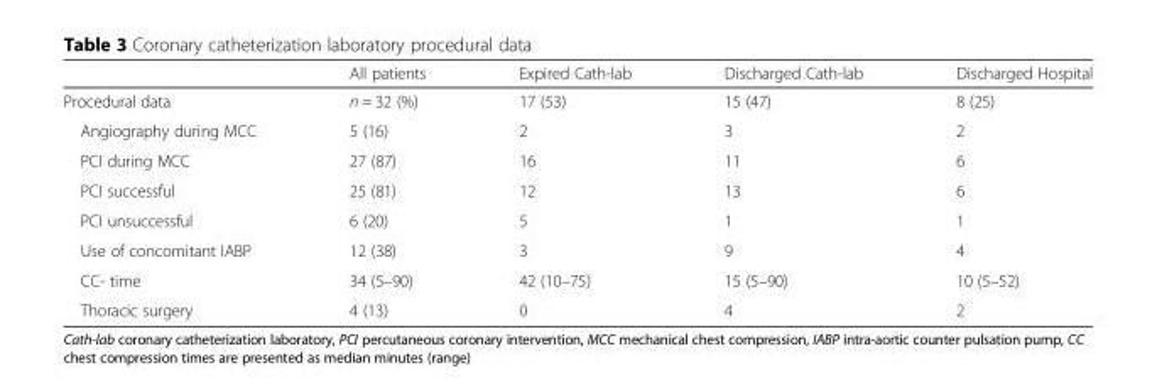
<table><thead><tr><td></td><td>All patients</td><td>Expired Cath-lab</td><td>Discharged Cath-lab</td><td>Discharged Hospital</td></tr></thead><tbody><tr><td>Procedural data</td><td>n = 32 (%)</td><td>17 (53)</td><td>15 (47)</td><td>8 (25)</td></tr><tr><td>Angiography during MCC</td><td>5 (16)</td><td>2</td><td>3</td><td>2</td></tr><tr><td>PCI during MCC</td><td>27 (87)</td><td>16</td><td>11</td><td>6</td></tr><tr><td>PCI successful</td><td>25 (81)</td><td>12</td><td>13</td><td>6</td></tr><tr><td>PCI unsuccessful</td><td>6 (20)</td><td>5</td><td>1</td><td>1</td></tr><tr><td>Use of concomitant IABP</td><td>12 (38)</td><td>3</td><td>9</td><td>4</td></tr><tr><td>CC- time</td><td>34 (5–90)</td><td>42 (10–75)</td><td>15 (5–90)</td><td>10 (5–52)</td></tr><tr><td>Thoracic surgery</td><td>4 (13)</td><td>0</td><td>4</td><td>2</td></tr></tbody></table>